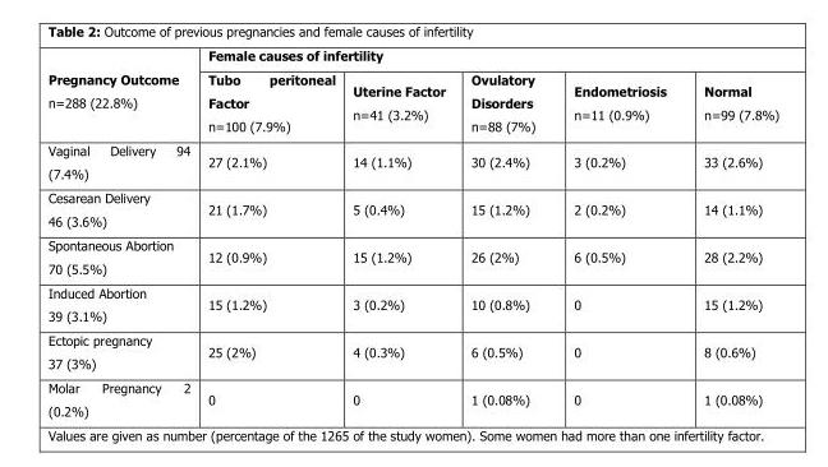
<table><thead><tr><td rowspan="2">Pregnancy Outcome n=288 (22.8%)</td><td colspan="5">Female causes of infertility</td></tr><tr><td>Tubo peritoneal Factor n=100 (7.9%)</td><td>Uterine Factor n=41 (3.2%)</td><td>Ovulatory Disorders n=88 (7%)</td><td>Endometriosis n=11 (0.9%)</td><td>Normal n=99 (7.8%)</td></tr></thead><tbody><tr><td>Vaginal Delivery 94 (7.4%)</td><td>27 (2.1%)</td><td>14 (1.1%)</td><td>30 (2.4%)</td><td>3 (0.2%)</td><td>33 (2.6%)</td></tr><tr><td>Cesarean Delivery 46 (3.6%)</td><td>21 (1.7%)</td><td>5 (0.4%)</td><td>15 (1.2%)</td><td>2 (0.2%)</td><td>14 (1.1%)</td></tr><tr><td>Spontaneous Abortion 70 (5.5%)</td><td>12 (0.9%)</td><td>15 (1.2%)</td><td>26 (2%)</td><td>6 (0.5%)</td><td>28 (2.2%)</td></tr><tr><td>Induced Abortion 39 (3.1%)</td><td>15 (1.2%)</td><td>3 (0.2%)</td><td>10 (0.8%)</td><td>0</td><td>15 (1.2%)</td></tr><tr><td>Ectopic pregnancy 37 (3%)</td><td>25 (2%)</td><td>4 (0.3%)</td><td>6 (0.5%)</td><td>0</td><td>8 (0.6%)</td></tr><tr><td>Molar Pregnancy 2 (0.2%)</td><td>0</td><td>0</td><td>1 (0.08%)</td><td>0</td><td>1 (0.08%)</td></tr></tbody></table>